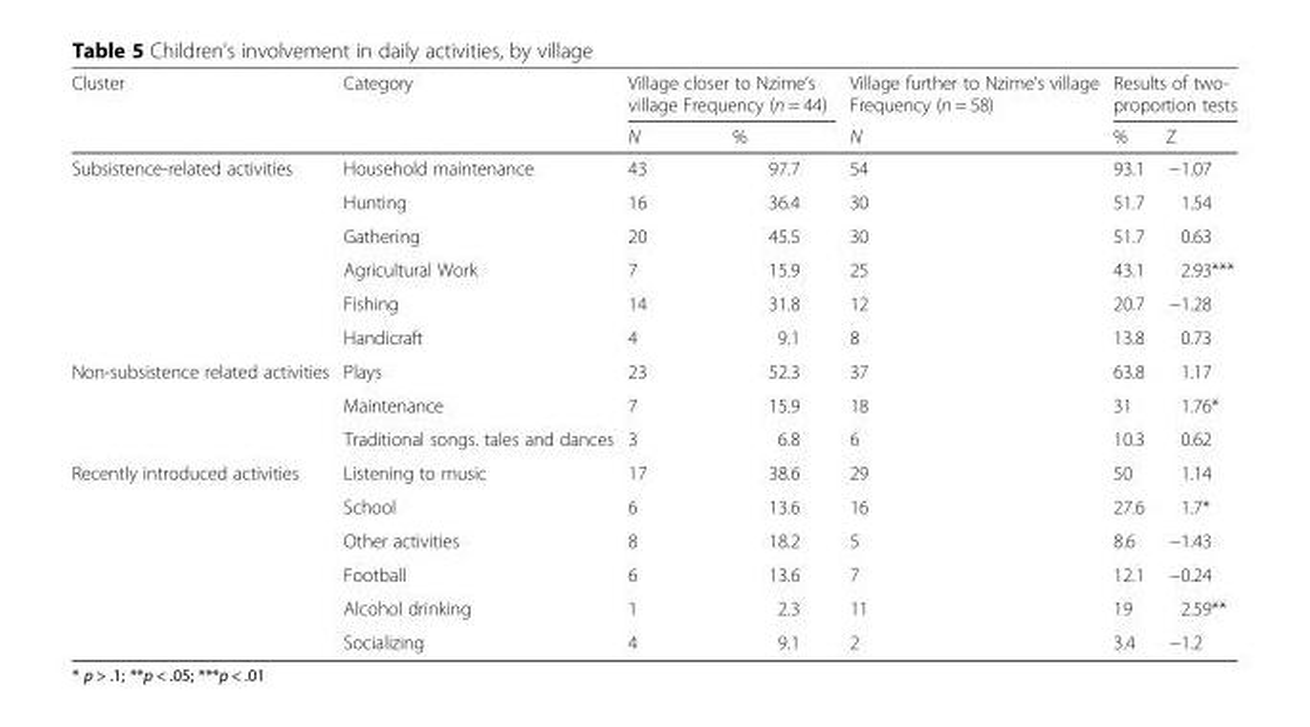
<table><thead><tr><td rowspan="2">Cluster</td><td rowspan="2">Category</td><td colspan="2">Village closer to Nzime’s village Frequency (n = 44)</td><td rowspan="2">Village further to Nzime’s village Frequency (n = 58) N</td><td colspan="2">Results of two- proportion tests</td></tr><tr><td>N</td><td>%</td><td>%</td><td>Z</td></tr></thead><tbody><tr><td rowspan="6">Subsistence-related activities</td><td>Household maintenance</td><td>43</td><td>97.7</td><td>54</td><td>93.1</td><td>−1.07</td></tr><tr><td>Hunting</td><td>16</td><td>36.4</td><td>30</td><td>51.7</td><td>1.54</td></tr><tr><td>Gathering</td><td>20</td><td>45.5</td><td>30</td><td>51.7</td><td>0.63</td></tr><tr><td>Agricultural Work</td><td>7</td><td>15.9</td><td>25</td><td>43.1</td><td>2.93***</td></tr><tr><td>Fishing</td><td>14</td><td>31.8</td><td>12</td><td>20.7</td><td>−1.28</td></tr><tr><td>Handicraft</td><td>4</td><td>9.1</td><td>8</td><td>13.8</td><td>0.73</td></tr><tr><td rowspan="3">Non-subsistence related activities</td><td>Plays</td><td>23</td><td>52.3</td><td>37</td><td>63.8</td><td>1.17</td></tr><tr><td>Maintenance</td><td>7</td><td>15.9</td><td>18</td><td>31</td><td>1.76*</td></tr><tr><td>Traditional songs. tales and dances</td><td>3</td><td>6.8</td><td>6</td><td>10.3</td><td>0.62</td></tr><tr><td rowspan="6">Recently introduced activities</td><td>Listening to music</td><td>17</td><td>38.6</td><td>29</td><td>50</td><td>1.14</td></tr><tr><td>School</td><td>6</td><td>13.6</td><td>16</td><td>27.6</td><td>1.7*</td></tr><tr><td>Other activities</td><td>8</td><td>18.2</td><td>5</td><td>8.6</td><td>−1.43</td></tr><tr><td>Football</td><td>6</td><td>13.6</td><td>7</td><td>12.1</td><td>−0.24</td></tr><tr><td>Alcohol drinking</td><td>1</td><td>2.3</td><td>11</td><td>19</td><td>2.59**</td></tr><tr><td>Socializing</td><td>4</td><td>9.1</td><td>2</td><td>3.4</td><td>−1.2</td></tr></tbody></table>